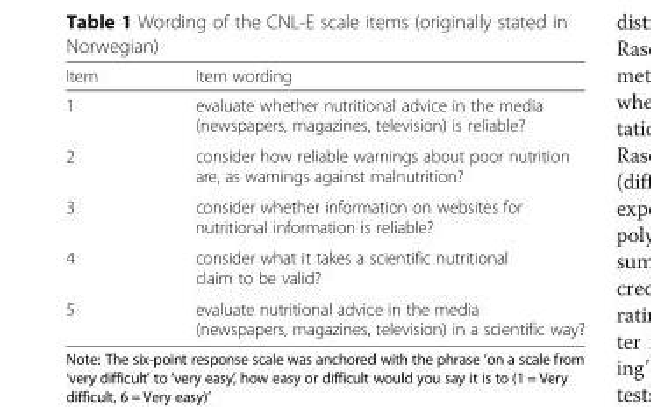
<table><thead><tr><td>Item</td><td>Item wording</td></tr></thead><tbody><tr><td>1</td><td>evaluate whether nutritional advice in the media (newspapers, magazines, television) is reliable?</td></tr><tr><td>2</td><td>consider how reliable warnings about poor nutrition are, as warnings against malnutrition?</td></tr><tr><td>3</td><td>consider whether information on websites for nutritional information is reliable?</td></tr><tr><td>4</td><td>consider what it takes a scientific nutritional claim to be valid?</td></tr><tr><td>5</td><td>evaluate nutritional advice in the media (newspapers, magazines, television) in a scientific way?</td></tr></tbody></table>